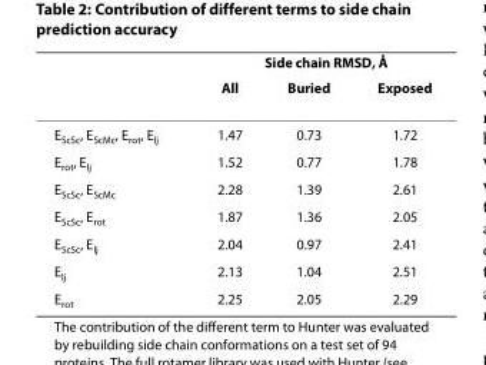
<table><thead><tr><td rowspan="2"></td><td colspan="3">Side chain RMSD, Å</td></tr><tr><td>All</td><td>Buried</td><td>Exposed</td></tr></thead><tbody><tr><td>E<sub>ScSc</sub>, E<sub>ScMc</sub>, E<sub>rot</sub>, E<sub>lj</sub></td><td>1.47</td><td>0.73</td><td>1.72</td></tr><tr><td>E<sub>rot</sub>, E<sub>lj</sub></td><td>1.52</td><td>0.77</td><td>1.78</td></tr><tr><td>E<sub>ScSc</sub>, E<sub>ScMc</sub></td><td>2.28</td><td>1.39</td><td>2.61</td></tr><tr><td>E<sub>ScSc</sub>, E<sub>rot</sub></td><td>1.87</td><td>1.36</td><td>2.05</td></tr><tr><td>E<sub>ScSc</sub>, E<sub>lj</sub></td><td>2.04</td><td>0.97</td><td>2.41</td></tr><tr><td>E<sub>lj</sub></td><td>2.13</td><td>1.04</td><td>2.51</td></tr><tr><td>E<sub>rot</sub></td><td>2.25</td><td>2.05</td><td>2.29</td></tr></tbody></table>